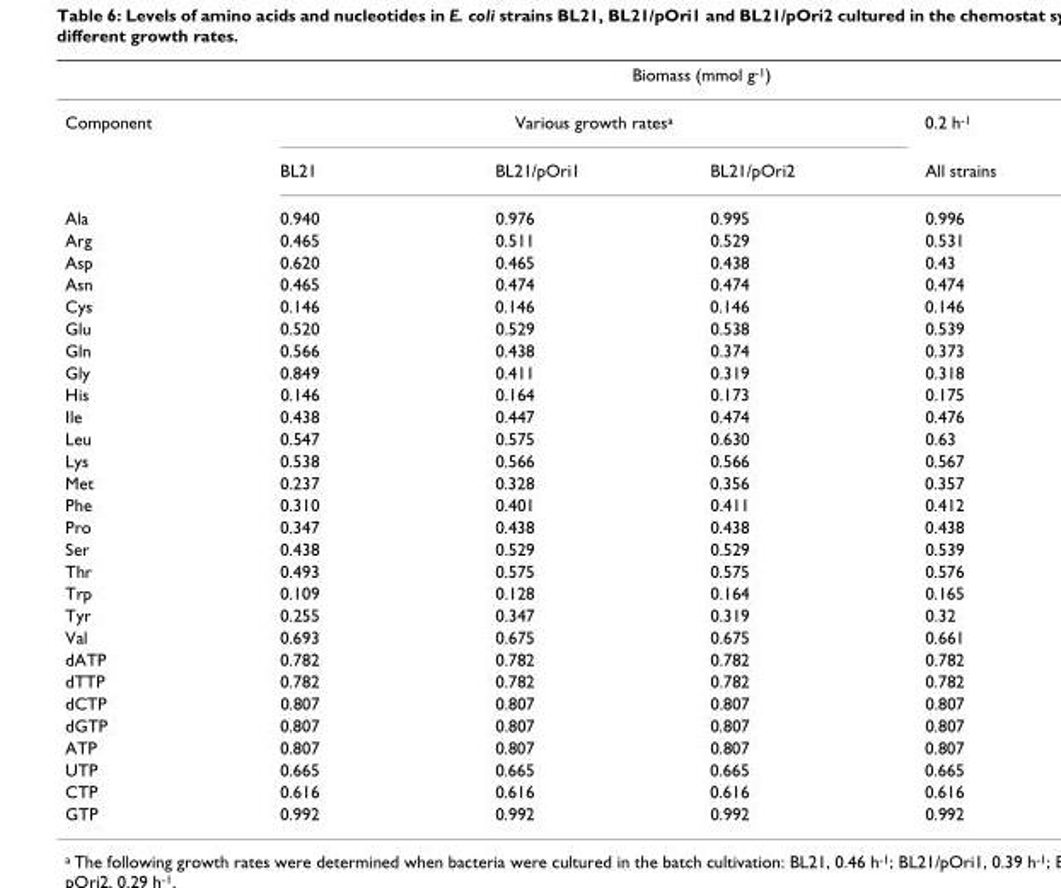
<table><thead><tr><td rowspan="3">Component</td><td colspan="4">Biomass (mmol g<sup>-1</sup>)</td></tr><tr><td colspan="3">Various growth rates<sup>a</sup></td><td rowspan="2">0.2 h<sup>-1</sup> All strains</td></tr><tr><td>BL21</td><td>BL21/pOri1</td><td>BL21/pOri2</td></tr></thead><tbody><tr><td>Ala</td><td>0.940</td><td>0.976</td><td>0.995</td><td>0.996</td></tr><tr><td>Arg</td><td>0.465</td><td>0.511</td><td>0.529</td><td>0.531</td></tr><tr><td>Asp</td><td>0.620</td><td>0.465</td><td>0.438</td><td>0.43</td></tr><tr><td>Asn</td><td>0.465</td><td>0.474</td><td>0.474</td><td>0.474</td></tr><tr><td>Cys</td><td>0.146</td><td>0.146</td><td>0.146</td><td>0.146</td></tr><tr><td>Glu</td><td>0.520</td><td>0.529</td><td>0.538</td><td>0.539</td></tr><tr><td>Gln</td><td>0.566</td><td>0.438</td><td>0.374</td><td>0.373</td></tr><tr><td>Gly</td><td>0.849</td><td>0.411</td><td>0.319</td><td>0.318</td></tr><tr><td>His</td><td>0.146</td><td>0.164</td><td>0.173</td><td>0.175</td></tr><tr><td>Ile</td><td>0.438</td><td>0.447</td><td>0.474</td><td>0.476</td></tr><tr><td>Leu</td><td>0.547</td><td>0.575</td><td>0.630</td><td>0.63</td></tr><tr><td>Lys</td><td>0.538</td><td>0.566</td><td>0.566</td><td>0.567</td></tr><tr><td>Met</td><td>0.237</td><td>0.328</td><td>0.356</td><td>0.357</td></tr><tr><td>Phe</td><td>0.310</td><td>0.401</td><td>0.411</td><td>0.412</td></tr><tr><td>Pro</td><td>0.347</td><td>0.438</td><td>0.438</td><td>0.438</td></tr><tr><td>Ser</td><td>0.438</td><td>0.529</td><td>0.529</td><td>0.539</td></tr><tr><td>Thr</td><td>0.493</td><td>0.575</td><td>0.575</td><td>0.576</td></tr><tr><td>Trp</td><td>0.109</td><td>0.128</td><td>0.164</td><td>0.165</td></tr><tr><td>Tyr</td><td>0.255</td><td>0.347</td><td>0.319</td><td>0.32</td></tr><tr><td>Val</td><td>0.693</td><td>0.675</td><td>0.675</td><td>0.661</td></tr><tr><td>dATP</td><td>0.782</td><td>0.782</td><td>0.782</td><td>0.782</td></tr><tr><td>dTTP</td><td>0.782</td><td>0.782</td><td>0.782</td><td>0.782</td></tr><tr><td>dCTP</td><td>0.807</td><td>0.807</td><td>0.807</td><td>0.807</td></tr><tr><td>dGTP</td><td>0.807</td><td>0.807</td><td>0.807</td><td>0.807</td></tr><tr><td>ATP</td><td>0.807</td><td>0.807</td><td>0.807</td><td>0.807</td></tr><tr><td>UTP</td><td>0.665</td><td>0.665</td><td>0.665</td><td>0.665</td></tr><tr><td>CTP</td><td>0.616</td><td>0.616</td><td>0.616</td><td>0.616</td></tr><tr><td>GTP</td><td>0.992</td><td>0.992</td><td>0.992</td><td>0.992</td></tr></tbody></table>